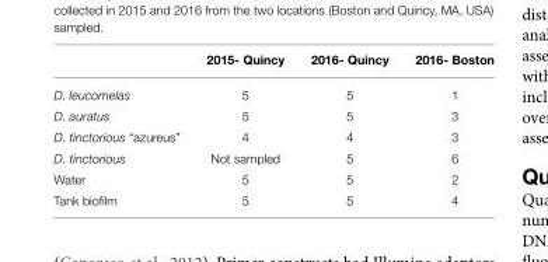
<table><thead><tr><td></td><td>2015- Quincy</td><td>2016- Quincy</td><td>2016- Boston</td></tr></thead><tbody><tr><td>D. leucomelas</td><td>5</td><td>5</td><td>1</td></tr><tr><td>D. auratus</td><td>5</td><td>5</td><td>3</td></tr><tr><td>D. tinctorious “azureus”</td><td>4</td><td>4</td><td>3</td></tr><tr><td>D. tinctorious</td><td>Not sampled</td><td>5</td><td>6</td></tr><tr><td>Water</td><td>5</td><td>5</td><td>2</td></tr><tr><td>Tank biofilm</td><td>5</td><td>5</td><td>4</td></tr></tbody></table>